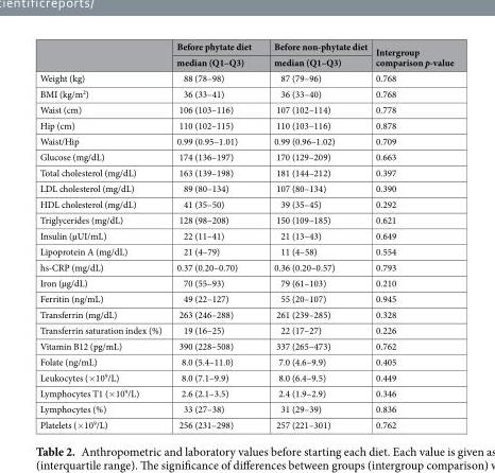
<table><thead><tr><td rowspan="2"></td><td rowspan="2">Before phytate diet median (Q1–Q3)</td><td rowspan="2">Before non-phytate diet median (Q1–Q3)</td><td rowspan="2">Intergroup comparison p-value</td></tr><tr></tr></thead><tbody><tr><td>Weight (kg)</td><td>88 (78–98)</td><td>87 (79–96)</td><td>0.768</td></tr><tr><td>BMI (kg/m<sup>2</sup>)</td><td>36 (33–41)</td><td>36 (33–40)</td><td>0.768</td></tr><tr><td>Waist (cm)</td><td>106 (103–116)</td><td>107 (102–114)</td><td>0.778</td></tr><tr><td>Hip (cm)</td><td>110 (102–115)</td><td>110 (103–116)</td><td>0.878</td></tr><tr><td>Waist/Hip</td><td>0.99 (0.95–1.01)</td><td>0.99 (0.96–1.02)</td><td>0.709</td></tr><tr><td>Glucose (mg/dL)</td><td>174 (136–197)</td><td>170 (129–209)</td><td>0.663</td></tr><tr><td>Total cholesterol (mg/dL)</td><td>163 (139–198)</td><td>181 (144–212)</td><td>0.397</td></tr><tr><td>LDL cholesterol (mg/dL)</td><td>89 (80–134)</td><td>107 (80–134)</td><td>0.390</td></tr><tr><td>HDL cholesterol (mg/dL)</td><td>41 (35–50)</td><td>39 (35–45)</td><td>0.292</td></tr><tr><td>Triglycerides (mg/dL)</td><td>128 (98–208)</td><td>150 (109–185)</td><td>0.621</td></tr><tr><td>Insulin (µUI/mL)</td><td>22 (11–41)</td><td>21 (13–43)</td><td>0.649</td></tr><tr><td>Lipoprotein A (mg/dL)</td><td>21 (4–79)</td><td>11 (4–58)</td><td>0.554</td></tr><tr><td>hs-CRP (mg/dL)</td><td>0.37 (0.20–0.70)</td><td>0.36 (0.20–0.57)</td><td>0.793</td></tr><tr><td>Iron (µg/dL)</td><td>70 (55–93)</td><td>79 (61–103)</td><td>0.210</td></tr><tr><td>Ferritin (ng/mL)</td><td>49 (22–127)</td><td>55 (20–107)</td><td>0.945</td></tr><tr><td>Transferrin (mg/dL)</td><td>263 (246–288)</td><td>261 (239–285)</td><td>0.328</td></tr><tr><td>Transferrin saturation index (%)</td><td>19 (16–25)</td><td>22 (17–27)</td><td>0.226</td></tr><tr><td>Vitamin B12 (pg/mL)</td><td>390 (228–508)</td><td>337 (265–473)</td><td>0.762</td></tr><tr><td>Folate (ng/mL)</td><td>8.0 (5.4–11.0)</td><td>7.0 (4.6–9.9)</td><td>0.405</td></tr><tr><td>Leukocytes (×10<sup>9</sup>/L)</td><td>8.0 (7.1–9.9)</td><td>8.0 (6.4–9.5)</td><td>0.449</td></tr><tr><td>Lymphocytes T1 (×10<sup>9</sup>/L)</td><td>2.6 (2.1–3.5)</td><td>2.4 (1.9–2.9)</td><td>0.346</td></tr><tr><td>Lymphocytes (%)</td><td>33 (27–38)</td><td>31 (29–39)</td><td>0.836</td></tr><tr><td>Platelets (×10<sup>9</sup>/L)</td><td>256 (231–298)</td><td>257 (221–301)</td><td>0.762</td></tr></tbody></table>